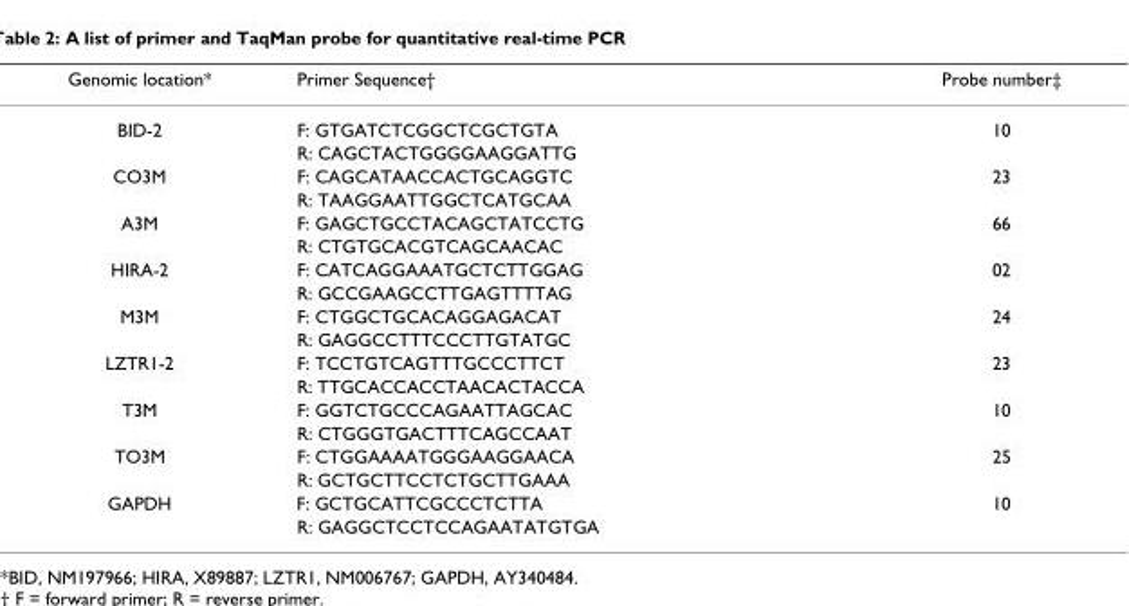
<table><thead><tr><td>Genomic location*</td><td>Primer Sequence†</td><td>Probe number‡</td></tr></thead><tbody><tr><td rowspan="2">BID-2</td><td>F: GTGATCTCGGCTCGCTGTA</td><td>10</td></tr><tr><td>R: CAGCTACTGGGGAAGGATTG</td><td></td></tr><tr><td rowspan="2">CO3M</td><td>F: CAGCATAACCACTGCAGGTC</td><td>23</td></tr><tr><td>R: TAAGGAATTGGCTCATGCAA</td><td></td></tr><tr><td rowspan="2">A3M</td><td>F: GAGCTGCCTACAGCTATCCTG</td><td>66</td></tr><tr><td>R: CTGTGCACGTCAGCAACAC</td><td></td></tr><tr><td rowspan="2">HIRA-2</td><td>F: CATCAGGAAATGCTCTTGGAG</td><td>02</td></tr><tr><td>R: GCCGAAGCCTTGAGTTTTAG</td><td></td></tr><tr><td rowspan="2">M3M</td><td>F: CTGGCTGCACAGGAGACAT</td><td>24</td></tr><tr><td>R: GAGGCCTTTCCCTTGTATGC</td><td></td></tr><tr><td rowspan="2">LZTR1-2</td><td>F: TCCTGTCAGTTTGCCCTTCT</td><td>23</td></tr><tr><td>R: TTGCACCACCTAACACTACCA</td><td></td></tr><tr><td rowspan="2">T3M</td><td>F: GGTCTGCCCAGAATTAGCAC</td><td>10</td></tr><tr><td>R: CTGGGTGACTTTCAGCCAAT</td><td></td></tr><tr><td rowspan="2">TO3M</td><td>F: CTGGAAAATGGGAAGGAACA</td><td>25</td></tr><tr><td>R: GCTGCTTCCTCTGCTTGAAA</td><td></td></tr><tr><td rowspan="2">GAPDH</td><td>F: GCTGCATTCGCCCTCTTA</td><td>10</td></tr><tr><td>R: GAGGCTCCTCCAGAATATGTGA</td><td></td></tr></tbody></table>